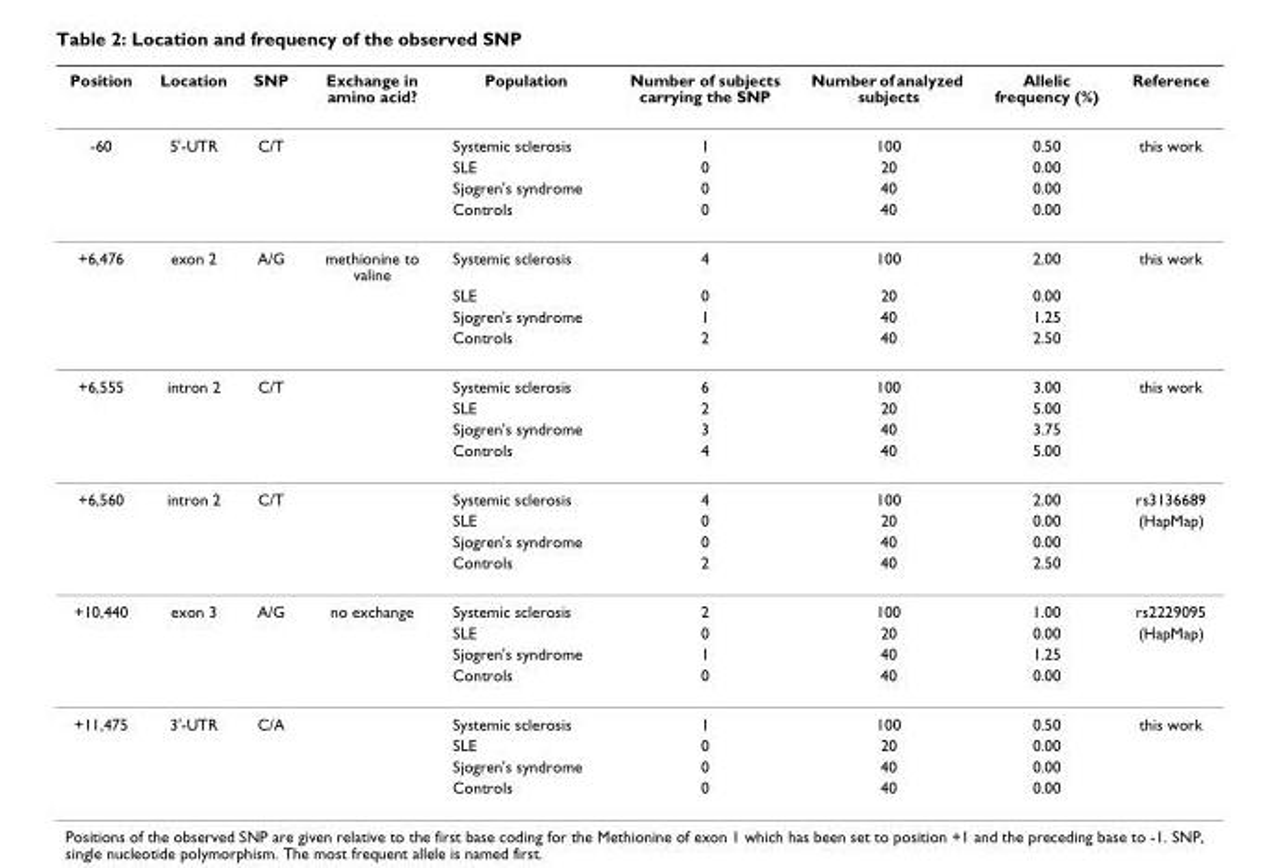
<table><thead><tr><td>Position</td><td>Location</td><td>SNP</td><td>Exchange in amino acid?</td><td>Population</td><td>Number of subjects carrying the SNP</td><td>Number of analyzed subjects</td><td>Allelic frequency (%)</td><td>Reference</td></tr></thead><tbody><tr><td rowspan="4">-60</td><td>5&#x27;-UTR</td><td>C/T</td><td></td><td>Systemic sclerosis</td><td>1</td><td>100</td><td>0.50</td><td>this work</td></tr><tr><td></td><td></td><td></td><td>SLE</td><td>0</td><td>20</td><td>0.00</td><td></td></tr><tr><td></td><td></td><td></td><td>Sjogren&#x27;s syndrome</td><td>0</td><td>40</td><td>0.00</td><td></td></tr><tr><td></td><td></td><td></td><td>Controls</td><td>0</td><td>40</td><td>0.00</td><td></td></tr><tr><td rowspan="4">+6,476</td><td>exon 2</td><td>A/G</td><td>methionine to valine</td><td>Systemic sclerosis</td><td>4</td><td>100</td><td>2.00</td><td>this work</td></tr><tr><td></td><td></td><td></td><td>SLE</td><td>0</td><td>20</td><td>0.00</td><td></td></tr><tr><td></td><td></td><td></td><td>Sjogren&#x27;s syndrome</td><td>1</td><td>40</td><td>1.25</td><td></td></tr><tr><td></td><td></td><td></td><td>Controls</td><td>2</td><td>40</td><td>2.50</td><td></td></tr><tr><td rowspan="4">+6,555</td><td>intron 2</td><td>C/T</td><td></td><td>Systemic sclerosis</td><td>6</td><td>100</td><td>3.00</td><td>this work</td></tr><tr><td></td><td></td><td></td><td>SLE</td><td>2</td><td>20</td><td>5.00</td><td></td></tr><tr><td></td><td></td><td></td><td>Sjogren&#x27;s syndrome</td><td>3</td><td>40</td><td>3.75</td><td></td></tr><tr><td></td><td></td><td></td><td>Controls</td><td>4</td><td>40</td><td>5.00</td><td></td></tr><tr><td rowspan="4">+6,560</td><td>intron 2</td><td>C/T</td><td></td><td>Systemic sclerosis</td><td>4</td><td>100</td><td>2.00</td><td>rs3136689</td></tr><tr><td></td><td></td><td></td><td>SLE</td><td>0</td><td>20</td><td>0.00</td><td>(HapMap)</td></tr><tr><td></td><td></td><td></td><td>Sjogren&#x27;s syndrome</td><td>0</td><td>40</td><td>0.00</td><td></td></tr><tr><td></td><td></td><td></td><td>Controls</td><td>2</td><td>40</td><td>2.50</td><td></td></tr><tr><td rowspan="4">+10,440</td><td>exon 3</td><td>A/G</td><td>no exchange</td><td>Systemic sclerosis</td><td>2</td><td>100</td><td>1.00</td><td>rs2229095</td></tr><tr><td></td><td></td><td></td><td>SLE</td><td>0</td><td>20</td><td>0.00</td><td>(HapMap)</td></tr><tr><td></td><td></td><td></td><td>Sjogren&#x27;s syndrome</td><td>1</td><td>40</td><td>1.25</td><td></td></tr><tr><td></td><td></td><td></td><td>Controls</td><td>0</td><td>40</td><td>0.00</td><td></td></tr><tr><td rowspan="4">+11,475</td><td>3&#x27;-UTR</td><td>C/A</td><td></td><td>Systemic sclerosis</td><td>1</td><td>100</td><td>0.50</td><td>this work</td></tr><tr><td></td><td></td><td></td><td>SLE</td><td>0</td><td>20</td><td>0.00</td><td></td></tr><tr><td></td><td></td><td></td><td>Sjogren&#x27;s syndrome</td><td>0</td><td>40</td><td>0.00</td><td></td></tr><tr><td></td><td></td><td></td><td>Controls</td><td>0</td><td>40</td><td>0.00</td><td></td></tr></tbody></table>